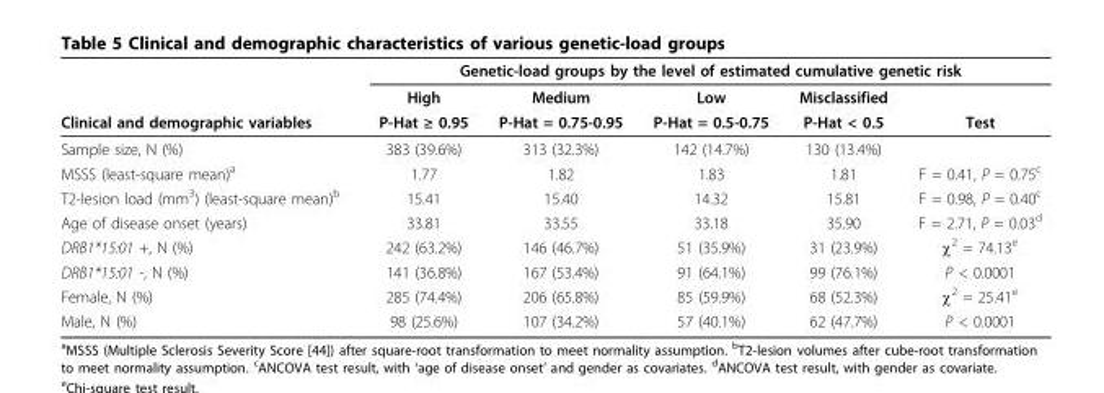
<table><thead><tr><td rowspan="3">Clinical and demographic variables</td><td colspan="5">Genetic-load groups by the level of estimated cumulative genetic risk</td></tr><tr><td rowspan="2">High P-Hat ≥ 0.95</td><td rowspan="2">Medium P-Hat = 0.75-0.95</td><td rowspan="2">Low P-Hat = 0.5-0.75</td><td rowspan="2">Misclassified P-Hat &lt; 0.5</td><td rowspan="2">Test</td></tr><tr></tr></thead><tbody><tr><td>Sample size, N (%)</td><td>383 (39.6%)</td><td>313 (32.3%)</td><td>142 (14.7%)</td><td>130 (13.4%)</td><td></td></tr><tr><td>MSSS (least-square mean)<sup>a</sup></td><td>1.77</td><td>1.82</td><td>1.83</td><td>1.81</td><td>F = 0.41, P = 0.75<sup>c</sup></td></tr><tr><td>T2-lesion load (mm<sup>3</sup>) (least-square mean)<sup>b</sup></td><td>15.41</td><td>15.40</td><td>14.32</td><td>15.81</td><td>F = 0.98, P = 0.40<sup>c</sup></td></tr><tr><td>Age of disease onset (years)</td><td>33.81</td><td>33.55</td><td>33.18</td><td>35.90</td><td>F = 2.71, P = 0.03<sup>d</sup></td></tr><tr><td>DRB1*15:01 +, N (%)</td><td>242 (63.2%)</td><td>146 (46.7%)</td><td>51 (35.9%)</td><td>31 (23.9%)</td><td>χ<sup>2</sup> = 74.13<sup>e</sup></td></tr><tr><td>DRB1*15:01 -, N (%)</td><td>141 (36.8%)</td><td>167 (53.4%)</td><td>91 (64.1%)</td><td>99 (76.1%)</td><td>P &lt; 0.0001</td></tr><tr><td>Female, N (%)</td><td>285 (74.4%)</td><td>206 (65.8%)</td><td>85 (59.9%)</td><td>68 (52.3%)</td><td>χ<sup>2</sup> = 25.41<sup>e</sup></td></tr><tr><td>Male, N (%)</td><td>98 (25.6%)</td><td>107 (34.2%)</td><td>57 (40.1%)</td><td>62 (47.7%)</td><td>P &lt; 0.0001</td></tr></tbody></table>